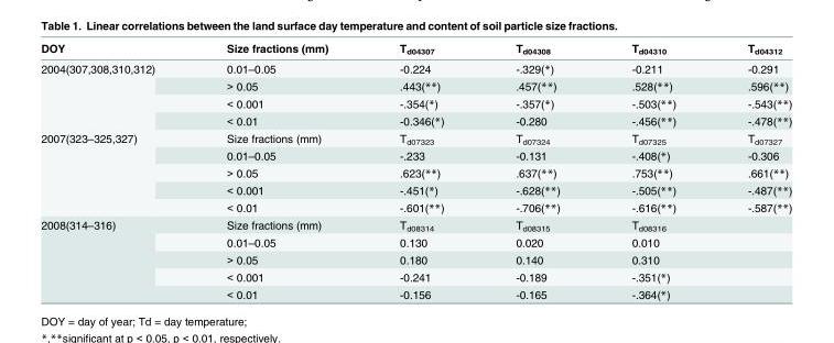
<table><thead><tr><td>DOY</td><td>Size fractions (mm)</td><td>T<sub>d04307</sub></td><td>T<sub>d04308</sub></td><td>T<sub>d04310</sub></td><td>T<sub>d04312</sub></td></tr></thead><tbody><tr><td rowspan="4">2004(307,308,310,312)</td><td>0.01–0.05</td><td>-0.224</td><td>-.329(*)</td><td>-0.211</td><td>-0.291</td></tr><tr><td>&gt; 0.05</td><td>.443(**)</td><td>.457(**)</td><td>.528(**)</td><td>.596(**)</td></tr><tr><td>&lt; 0.001</td><td>-.354(*)</td><td>-.357(*)</td><td>-.503(**)</td><td>-.543(**)</td></tr><tr><td>&lt; 0.01</td><td>-0.346(*)</td><td>-0.280</td><td>-.456(**)</td><td>-.478(**)</td></tr><tr><td rowspan="5">2007(323–325,327)</td><td>Size fractions (mm)</td><td>T<sub>d07323</sub></td><td>T<sub>d07324</sub></td><td>T<sub>d07325</sub></td><td>T<sub>d07327</sub></td></tr><tr><td>0.01–0.05</td><td>-.233</td><td>-0.131</td><td>-.408(*)</td><td>-0.306</td></tr><tr><td>&gt; 0.05</td><td>.623(**)</td><td>.637(**)</td><td>.753(**)</td><td>.661(**)</td></tr><tr><td>&lt; 0.001</td><td>-.451(*)</td><td>-.628(**)</td><td>-.505(**)</td><td>-.487(**)</td></tr><tr><td>&lt; 0.01</td><td>-.601(**)</td><td>-.706(**)</td><td>-.616(**)</td><td>-.587(**)</td></tr><tr><td rowspan="5">2008(314–316)</td><td>Size fractions (mm)</td><td>T<sub>d08314</sub></td><td>T<sub>d08315</sub></td><td>T<sub>d08316</sub></td><td></td></tr><tr><td>0.01–0.05</td><td>0.130</td><td>0.020</td><td>0.010</td><td></td></tr><tr><td>&gt; 0.05</td><td>0.180</td><td>0.140</td><td>0.310</td><td></td></tr><tr><td>&lt; 0.001</td><td>-0.241</td><td>-0.189</td><td>-.351(*)</td><td></td></tr><tr><td>&lt; 0.01</td><td>-0.156</td><td>-0.165</td><td>-.364(*)</td><td></td></tr></tbody></table>